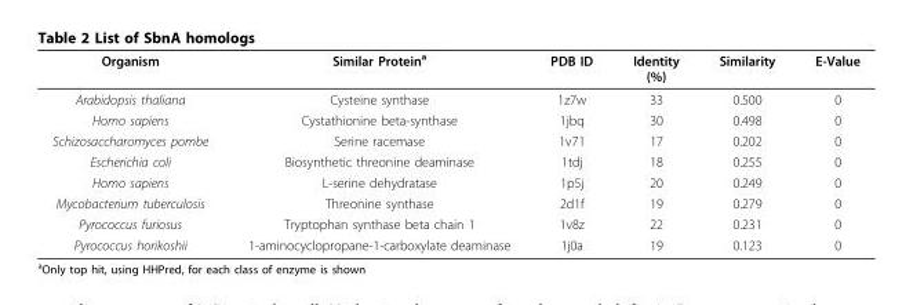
<table><thead><tr><td>Organism</td><td>Similar Protein<sup>a</sup></td><td>PDB ID</td><td>Identity (%)</td><td>Similarity</td><td>E-Value</td></tr></thead><tbody><tr><td>Arabidopsis thaliana</td><td>Cysteine synthase</td><td>1z7w</td><td>33</td><td>0.500</td><td>0</td></tr><tr><td>Homo sapiens</td><td>Cystathionine beta-synthase</td><td>1jbq</td><td>30</td><td>0.498</td><td>0</td></tr><tr><td>Schizosaccharomyces pombe</td><td>Serine racemase</td><td>1v71</td><td>17</td><td>0.202</td><td>0</td></tr><tr><td>Escherichia coli</td><td>Biosynthetic threonine deaminase</td><td>1tdj</td><td>18</td><td>0.255</td><td>0</td></tr><tr><td>Homo sapiens</td><td>L-serine dehydratase</td><td>1p5j</td><td>20</td><td>0.249</td><td>0</td></tr><tr><td>Mycobacterium tuberculosis</td><td>Threonine synthase</td><td>2d1f</td><td>19</td><td>0.279</td><td>0</td></tr><tr><td>Pyrococcus furiosus</td><td>Tryptophan synthase beta chain 1</td><td>1v8z</td><td>22</td><td>0.231</td><td>0</td></tr><tr><td>Pyrococcus horikoshii</td><td>1-aminocyclopropane-1-carboxylate deaminase</td><td>1j0a</td><td>19</td><td>0.123</td><td>0</td></tr></tbody></table>